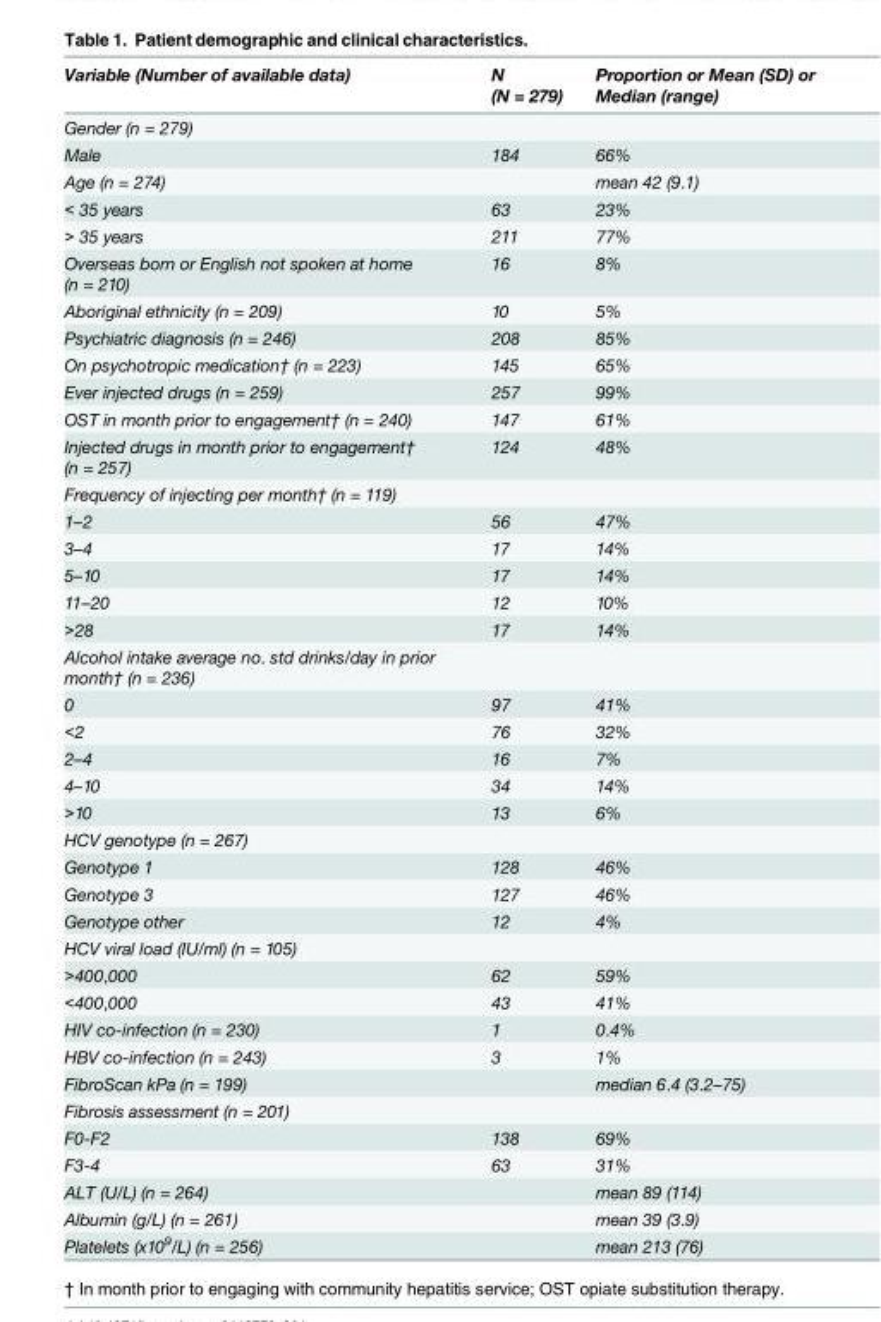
<table><thead><tr><td>Variable (Number of available data)</td><td>N (N = 279)</td><td>Proportion or Mean (SD) or Median (range)</td></tr></thead><tbody><tr><td colspan="3">Gender (n = 279)</td></tr><tr><td>Male</td><td>184</td><td>66%</td></tr><tr><td>Age (n = 274)</td><td></td><td>mean 42 (9.1)</td></tr><tr><td>&lt; 35 years</td><td>63</td><td>23%</td></tr><tr><td>&gt; 35 years</td><td>211</td><td>77%</td></tr><tr><td>Overseas born or English not spoken at home (n = 210)</td><td>16</td><td>8%</td></tr><tr><td>Aboriginal ethnicity (n = 209)</td><td>10</td><td>5%</td></tr><tr><td>Psychiatric diagnosis (n = 246)</td><td>208</td><td>85%</td></tr><tr><td>On psychotropic medication† (n = 223)</td><td>145</td><td>65%</td></tr><tr><td>Ever injected drugs (n = 259)</td><td>257</td><td>99%</td></tr><tr><td>OST in month prior to engagement† (n = 240)</td><td>147</td><td>61%</td></tr><tr><td>Injected drugs in month prior to engagement† (n = 257)</td><td>124</td><td>48%</td></tr><tr><td colspan="3">Frequency of injecting per month† (n = 119)</td></tr><tr><td>1–2</td><td>56</td><td>47%</td></tr><tr><td>3–4</td><td>17</td><td>14%</td></tr><tr><td>5–10</td><td>17</td><td>14%</td></tr><tr><td>11–20</td><td>12</td><td>10%</td></tr><tr><td>&gt;28</td><td>17</td><td>14%</td></tr><tr><td colspan="3">Alcohol intake average no. std drinks/day in prior month† (n = 236)</td></tr><tr><td>0</td><td>97</td><td>41%</td></tr><tr><td>&lt;2</td><td>76</td><td>32%</td></tr><tr><td>2–4</td><td>16</td><td>7%</td></tr><tr><td>4–10</td><td>34</td><td>14%</td></tr><tr><td>&gt;10</td><td>13</td><td>6%</td></tr><tr><td colspan="3">HCV genotype (n = 267)</td></tr><tr><td>Genotype 1</td><td>128</td><td>46%</td></tr><tr><td>Genotype 3</td><td>127</td><td>46%</td></tr><tr><td>Genotype other</td><td>12</td><td>4%</td></tr><tr><td colspan="3">HCV viral load (IU/ml) (n = 105)</td></tr><tr><td>&gt;400,000</td><td>62</td><td>59%</td></tr><tr><td>&lt;400,000</td><td>43</td><td>41%</td></tr><tr><td>HIV co-infection (n = 230)</td><td>1</td><td>0.4%</td></tr><tr><td>HBV co-infection (n = 243)</td><td>3</td><td>1%</td></tr><tr><td>FibroScan kPa (n = 199)</td><td></td><td>median 6.4 (3.2–75)</td></tr><tr><td colspan="3">Fibrosis assessment (n = 201)</td></tr><tr><td>F0-F2</td><td>138</td><td>69%</td></tr><tr><td>F3-4</td><td>63</td><td>31%</td></tr><tr><td>ALT (U/L) (n = 264)</td><td></td><td>mean 89 (114)</td></tr><tr><td>Albumin (g/L) (n = 261)</td><td></td><td>mean 39 (3.9)</td></tr><tr><td>Platelets (x10<sup>9</sup>/L) (n = 256)</td><td></td><td>mean 213 (76)</td></tr></tbody></table>